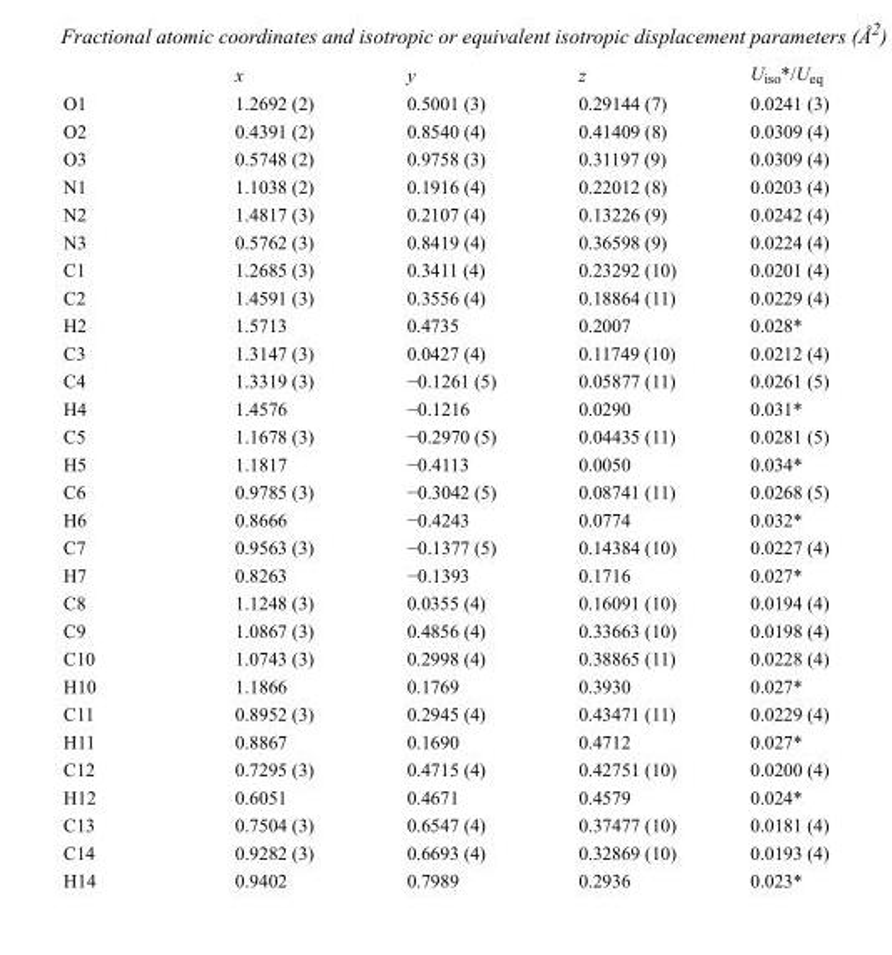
<table><thead><tr><td></td><td>x</td><td>y</td><td>z</td><td>U<sub>iso</sub>*/U<sub>eq</sub></td></tr></thead><tbody><tr><td>O1</td><td>1.2692 (2)</td><td>0.5001 (3)</td><td>0.29144 (7)</td><td>0.0241 (3)</td></tr><tr><td>O2</td><td>0.4391 (2)</td><td>0.8540 (4)</td><td>0.41409 (8)</td><td>0.0309 (4)</td></tr><tr><td>O3</td><td>0.5748 (2)</td><td>0.9758 (3)</td><td>0.31197 (9)</td><td>0.0309 (4)</td></tr><tr><td>N1</td><td>1.1038 (2)</td><td>0.1916 (4)</td><td>0.22012 (8)</td><td>0.0203 (4)</td></tr><tr><td>N2</td><td>1.4817 (3)</td><td>0.2107 (4)</td><td>0.13226 (9)</td><td>0.0242 (4)</td></tr><tr><td>N3</td><td>0.5762 (3)</td><td>0.8419 (4)</td><td>0.36598 (9)</td><td>0.0224 (4)</td></tr><tr><td>C1</td><td>1.2685 (3)</td><td>0.3411 (4)</td><td>0.23292 (10)</td><td>0.0201 (4)</td></tr><tr><td>C2</td><td>1.4591 (3)</td><td>0.3556 (4)</td><td>0.18864 (11)</td><td>0.0229 (4)</td></tr><tr><td>H2</td><td>1.5713</td><td>0.4735</td><td>0.2007</td><td>0.028*</td></tr><tr><td>C3</td><td>1.3147 (3)</td><td>0.0427 (4)</td><td>0.11749 (10)</td><td>0.0212 (4)</td></tr><tr><td>C4</td><td>1.3319 (3)</td><td>−0.1261 (5)</td><td>0.05877 (11)</td><td>0.0261 (5)</td></tr><tr><td>H4</td><td>1.4576</td><td>−0.1216</td><td>0.0290</td><td>0.031*</td></tr><tr><td>C5</td><td>1.1678 (3)</td><td>−0.2970 (5)</td><td>0.04435 (11)</td><td>0.0281 (5)</td></tr><tr><td>H5</td><td>1.1817</td><td>−0.4113</td><td>0.0050</td><td>0.034*</td></tr><tr><td>C6</td><td>0.9785 (3)</td><td>−0.3042 (5)</td><td>0.08741 (11)</td><td>0.0268 (5)</td></tr><tr><td>H6</td><td>0.8666</td><td>−0.4243</td><td>0.0774</td><td>0.032*</td></tr><tr><td>C7</td><td>0.9563 (3)</td><td>−0.1377 (5)</td><td>0.14384 (10)</td><td>0.0227 (4)</td></tr><tr><td>H7</td><td>0.8263</td><td>−0.1393</td><td>0.1716</td><td>0.027*</td></tr><tr><td>C8</td><td>1.1248 (3)</td><td>0.0355 (4)</td><td>0.16091 (10)</td><td>0.0194 (4)</td></tr><tr><td>C9</td><td>1.0867 (3)</td><td>0.4856 (4)</td><td>0.33663 (10)</td><td>0.0198 (4)</td></tr><tr><td>C10</td><td>1.0743 (3)</td><td>0.2998 (4)</td><td>0.38865 (11)</td><td>0.0228 (4)</td></tr><tr><td>H10</td><td>1.1866</td><td>0.1769</td><td>0.3930</td><td>0.027*</td></tr><tr><td>C11</td><td>0.8952 (3)</td><td>0.2945 (4)</td><td>0.43471 (11)</td><td>0.0229 (4)</td></tr><tr><td>H11</td><td>0.8867</td><td>0.1690</td><td>0.4712</td><td>0.027*</td></tr><tr><td>C12</td><td>0.7295 (3)</td><td>0.4715 (4)</td><td>0.42751 (10)</td><td>0.0200 (4)</td></tr><tr><td>H12</td><td>0.6051</td><td>0.4671</td><td>0.4579</td><td>0.024*</td></tr><tr><td>C13</td><td>0.7504 (3)</td><td>0.6547 (4)</td><td>0.37477 (10)</td><td>0.0181 (4)</td></tr><tr><td>C14</td><td>0.9282 (3)</td><td>0.6693 (4)</td><td>0.32869 (10)</td><td>0.0193 (4)</td></tr><tr><td>H14</td><td>0.9402</td><td>0.7989</td><td>0.2936</td><td>0.023*</td></tr></tbody></table>